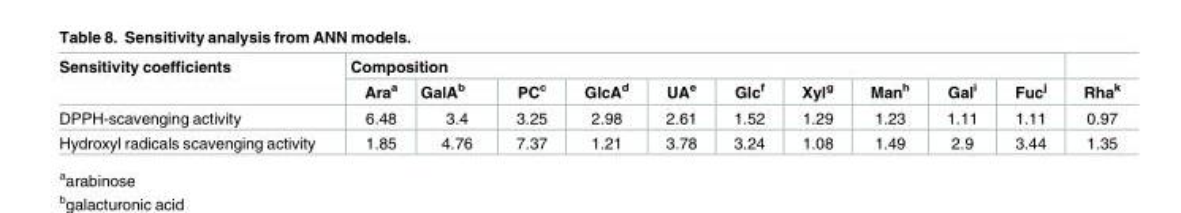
<table><thead><tr><td rowspan="2">Sensitivity coefficients</td><td colspan="10">Composition</td><td rowspan="2">Rha<sup>k</sup></td></tr><tr><td>Ara<sup>a</sup></td><td>GalA<sup>b</sup></td><td>PC<sup>c</sup></td><td>GlcA<sup>d</sup></td><td>UA<sup>e</sup></td><td>Glc<sup>f</sup></td><td>Xyl<sup>g</sup></td><td>Man<sup>h</sup></td><td>Gal<sup>i</sup></td><td>Fuc<sup>j</sup></td></tr></thead><tbody><tr><td>DPPH-scavenging activity</td><td>6.48</td><td>3.4</td><td>3.25</td><td>2.98</td><td>2.61</td><td>1.52</td><td>1.29</td><td>1.23</td><td>1.11</td><td>1.11</td><td>0.97</td></tr><tr><td>Hydroxyl radicals scavenging activity</td><td>1.85</td><td>4.76</td><td>7.37</td><td>1.21</td><td>3.78</td><td>3.24</td><td>1.08</td><td>1.49</td><td>2.9</td><td>3.44</td><td>1.35</td></tr></tbody></table>